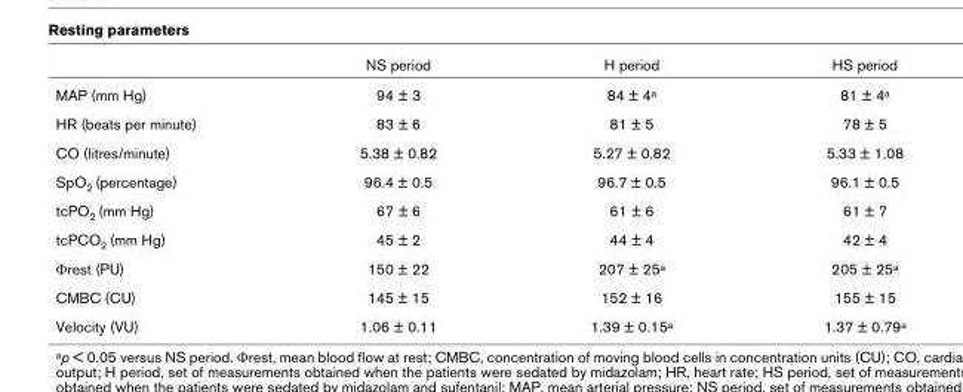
<table><thead><tr><td></td><td>NS period</td><td>H period</td><td>HS period</td></tr></thead><tbody><tr><td>MAP (mm Hg)</td><td>94 ± 3</td><td>84 ± 4a</td><td>81 ± 4a</td></tr><tr><td>HR (beats per minute)</td><td>83 ± 6</td><td>81 ± 5</td><td>78 ± 5</td></tr><tr><td>CO (litres/minute)</td><td>5.38 ± 0.82</td><td>5.27 ± 0.82</td><td>5.33 ± 1.08</td></tr><tr><td>SpO2 (percentage)</td><td>96.4 ± 0.5</td><td>96.7 ± 0.5</td><td>96.1 ± 0.5</td></tr><tr><td>tcPO2 (mm Hg)</td><td>67 ± 6</td><td>61 ± 6</td><td>61 ± 7</td></tr><tr><td>tcPCO2 (mm Hg)</td><td>45 ± 2</td><td>44 ± 4</td><td>42 ± 4</td></tr><tr><td>Φrest (PU)</td><td>150 ± 22</td><td>207 ± 25a</td><td>205 ± 25a</td></tr><tr><td>CMBC (CU)</td><td>145 ± 15</td><td>152 ± 16</td><td>155 ± 15</td></tr><tr><td>Velocity (VU)</td><td>1.06 ± 0.11</td><td>1.39 ± 0.15a</td><td>1.37 ± 0.79a</td></tr></tbody></table>